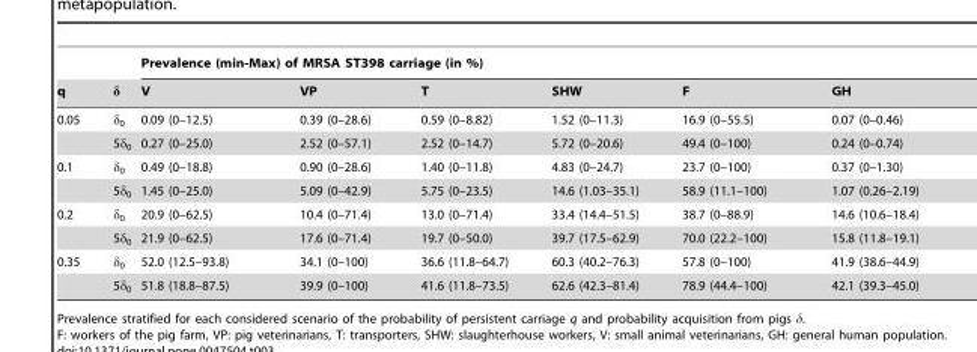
<table><thead><tr><td rowspan="2">q</td><td rowspan="2">δ</td><td colspan="6">Prevalence (min-Max) of MRSA ST398 carriage (in %)</td></tr><tr><td>V</td><td>VP</td><td>T</td><td>SHW</td><td>F</td><td>GH</td></tr></thead><tbody><tr><td rowspan="2">0.05</td><td>δ<sub>0</sub></td><td>0.09 (0–12.5)</td><td>0.39 (0–28.6)</td><td>0.59 (0–8.82)</td><td>1.52 (0–11.3)</td><td>16.9 (0–55.5)</td><td>0.07 (0–0.46)</td></tr><tr><td>5δ<sub>0</sub></td><td>0.27 (0–25.0)</td><td>2.52 (0–57.1)</td><td>2.52 (0–14.7)</td><td>5.72 (0–20.6)</td><td>49.4 (0–100)</td><td>0.24 (0–0.74)</td></tr><tr><td rowspan="2">0.1</td><td>δ<sub>0</sub></td><td>0.49 (0–18.8)</td><td>0.90 (0–28.6)</td><td>1.40 (0–11.8)</td><td>4.83 (0–24.7)</td><td>23.7 (0–100)</td><td>0.37 (0–1.30)</td></tr><tr><td>5δ<sub>0</sub></td><td>1.45 (0–25.0)</td><td>5.09 (0–42.9)</td><td>5.75 (0–23.5)</td><td>14.6 (1.03–35.1)</td><td>58.9 (11.1–100)</td><td>1.07 (0.26–2.19)</td></tr><tr><td rowspan="2">0.2</td><td>δ<sub>0</sub></td><td>20.9 (0–62.5)</td><td>10.4 (0–71.4)</td><td>13.0 (0–71.4)</td><td>33.4 (14.4–51.5)</td><td>38.7 (0–88.9)</td><td>14.6 (10.6–18.4)</td></tr><tr><td>5δ<sub>0</sub></td><td>21.9 (0–62.5)</td><td>17.6 (0–71.4)</td><td>19.7 (0–50.0)</td><td>39.7 (17.5–62.9)</td><td>70.0 (22.2–100)</td><td>15.8 (11.8–19.1)</td></tr><tr><td rowspan="2">0.35</td><td>δ<sub>0</sub></td><td>52.0 (12.5–93.8)</td><td>34.1 (0–100)</td><td>36.6 (11.8–64.7)</td><td>60.3 (40.2–76.3)</td><td>57.8 (0–100)</td><td>41.9 (38.6–44.9)</td></tr><tr><td>5δ<sub>0</sub></td><td>51.8 (18.8–87.5)</td><td>39.9 (0–100)</td><td>41.6 (11.8–73.5)</td><td>62.6 (42.3–81.4)</td><td>78.9 (44.4–100)</td><td>42.1 (39.3–45.0)</td></tr></tbody></table>